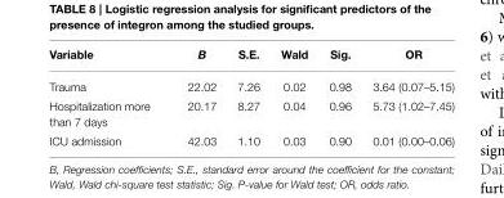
<table><thead><tr><td>Variable</td><td>B</td><td>S.E.</td><td>Wald</td><td>Sig.</td><td>OR</td></tr></thead><tbody><tr><td>Trauma</td><td>22.02</td><td>7.26</td><td>0.02</td><td>0.98</td><td>3.64 (0.07–5.15)</td></tr><tr><td>Hospitalization more than 7 days</td><td>20.17</td><td>8.27</td><td>0.04</td><td>0.96</td><td>5.73 (1.02–7.45)</td></tr><tr><td>ICU admission</td><td>42.03</td><td>1.10</td><td>0.03</td><td>0.90</td><td>0.01 (0.00–0.06)</td></tr></tbody></table>